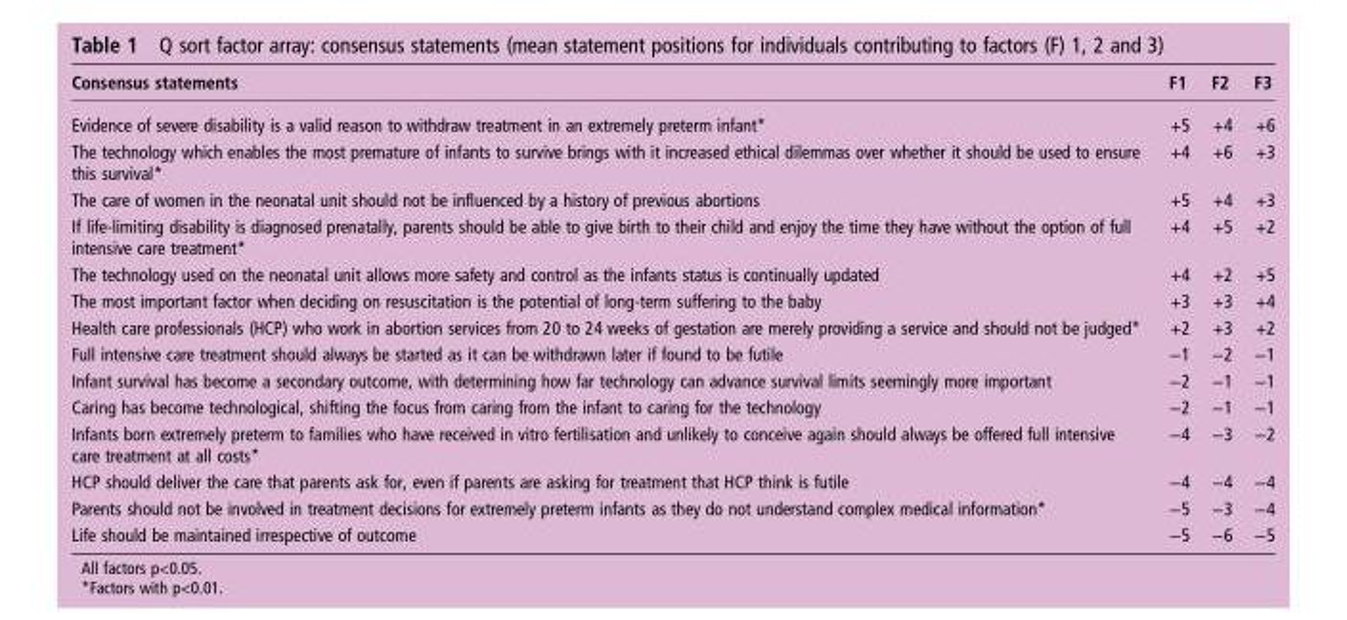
<table><thead><tr><td>Consensus statements</td><td>F1</td><td>F2</td><td>F3</td></tr></thead><tbody><tr><td>Evidence of severe disability is a valid reason to withdraw treatment in an extremely preterm infant*</td><td>+5</td><td>+4</td><td>+6</td></tr><tr><td>The technology which enables the most premature of infants to survive brings with it increased ethical dilemmas over whether it should be used to ensure this survival*</td><td>+4</td><td>+6</td><td>+3</td></tr><tr><td>The care of women in the neonatal unit should not be influenced by a history of previous abortions</td><td>+5</td><td>+4</td><td>+3</td></tr><tr><td>If life-limiting disability is diagnosed prenatally, parents should be able to give birth to their child and enjoy the time they have without the option of full intensive care treatment*</td><td>+4</td><td>+5</td><td>+2</td></tr><tr><td>The technology used on the neonatal unit allows more safety and control as the infants status is continually updated</td><td>+4</td><td>+2</td><td>+5</td></tr><tr><td>The most important factor when deciding on resuscitation is the potential of long-term suffering to the baby</td><td>+3</td><td>+3</td><td>+4</td></tr><tr><td>Health care professionals (HCP) who work in abortion services from 20 to 24 weeks of gestation are merely providing a service and should not be judged*</td><td>+2</td><td>+3</td><td>+2</td></tr><tr><td>Full intensive care treatment should always be started as it can be withdrawn later if found to be futile</td><td>−1</td><td>−2</td><td>−1</td></tr><tr><td>Infant survival has become a secondary outcome, with determining how far technology can advance survival limits seemingly more important</td><td>−2</td><td>−1</td><td>−1</td></tr><tr><td>Caring has become technological, shifting the focus from caring from the infant to caring for the technology</td><td>−2</td><td>−1</td><td>−1</td></tr><tr><td>Infants born extremely preterm to families who have received in vitro fertilisation and unlikely to conceive again should always be offered full intensive care treatment at all costs*</td><td>−4</td><td>−3</td><td>−2</td></tr><tr><td>HCP should deliver the care that parents ask for, even if parents are asking for treatment that HCP think is futile</td><td>−4</td><td>−4</td><td>−4</td></tr><tr><td>Parents should not be involved in treatment decisions for extremely preterm infants as they do not understand complex medical information*</td><td>−5</td><td>−3</td><td>−4</td></tr><tr><td>Life should be maintained irrespective of outcome</td><td>−5</td><td>−6</td><td>−5</td></tr></tbody></table>